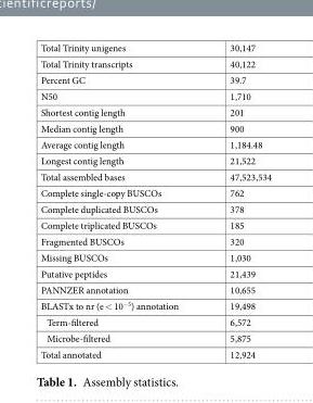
<table><tbody><tr><td>Total Trinity unigenes</td><td>30,147</td></tr><tr><td>Total Trinity transcripts</td><td>40,122</td></tr><tr><td>Percent GC</td><td>39.7</td></tr><tr><td>N50</td><td>1,710</td></tr><tr><td>Shortest contig length</td><td>201</td></tr><tr><td>Median contig length</td><td>900</td></tr><tr><td>Average contig length</td><td>1,184.48</td></tr><tr><td>Longest contig length</td><td>21,522</td></tr><tr><td>Total assembled bases</td><td>47,523,534</td></tr><tr><td>Complete single-copy BUSCOs</td><td>762</td></tr><tr><td>Complete duplicated BUSCOs</td><td>378</td></tr><tr><td>Complete triplicated BUSCOs</td><td>185</td></tr><tr><td>Fragmented BUSCOs</td><td>320</td></tr><tr><td>Missing BUSCOs</td><td>1,030</td></tr><tr><td>Putative peptides</td><td>21,439</td></tr><tr><td>PANNZER annotation</td><td>10,655</td></tr><tr><td>BLASTx to nr (e &lt; 10<sup>−5</sup>) annotation</td><td>19,498</td></tr><tr><td>Term-filtered</td><td>6,572</td></tr><tr><td>Microbe-filtered</td><td>5,875</td></tr><tr><td>Total annotated</td><td>12,924</td></tr></tbody></table>